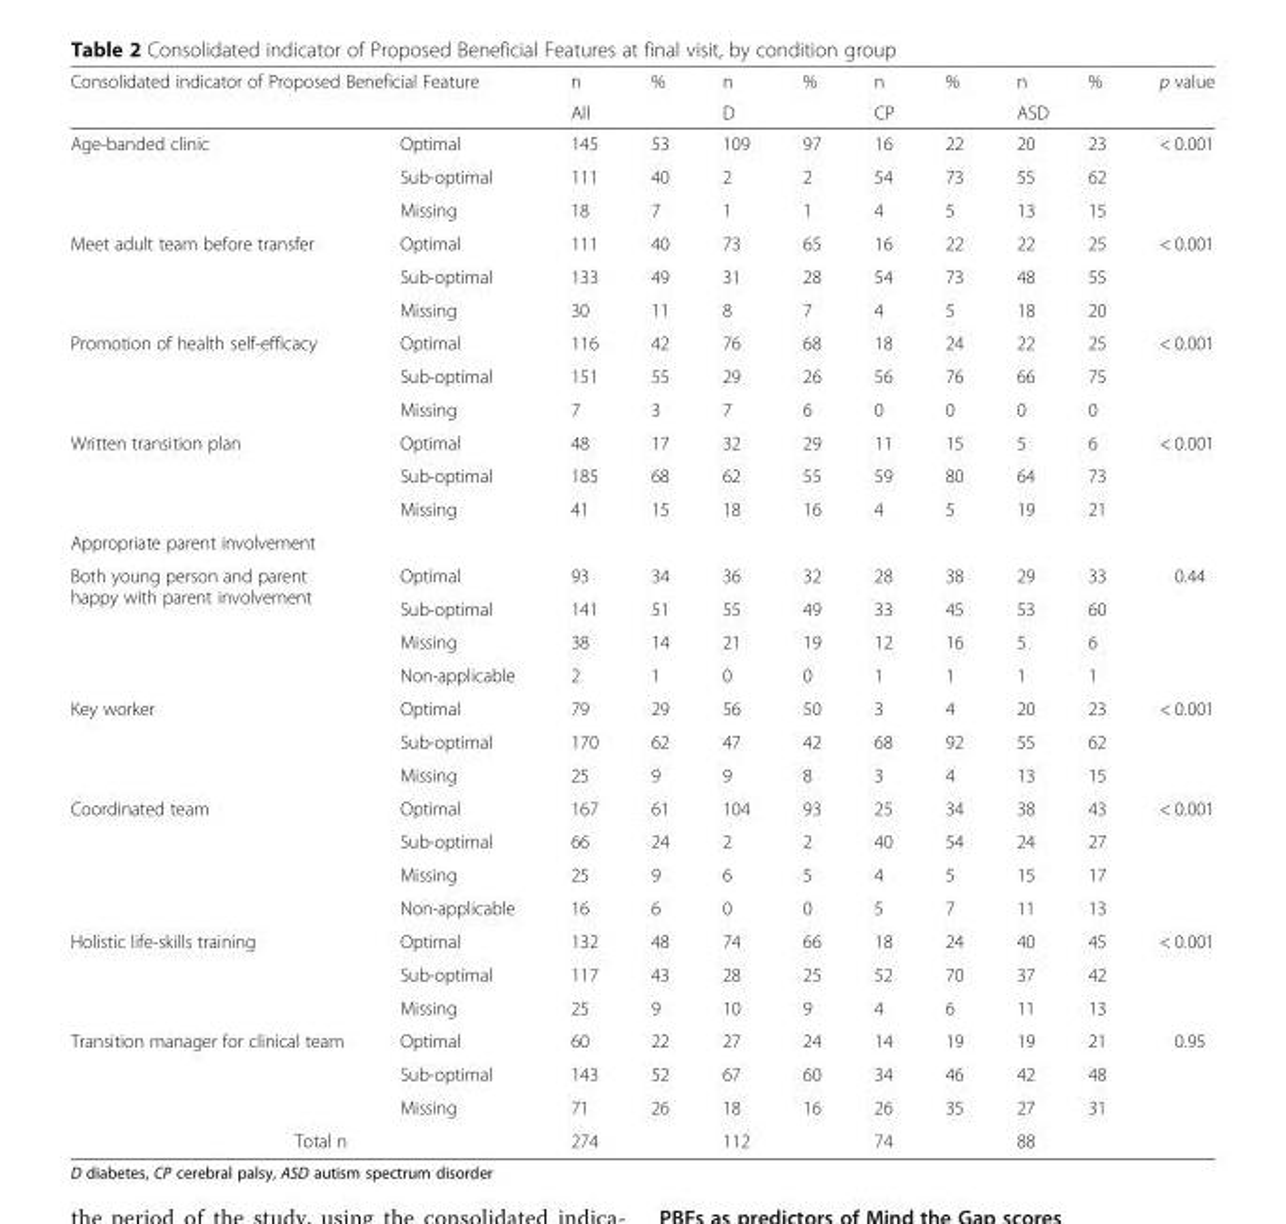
<table><thead><tr><td colspan="2">Consolidated indicator of Proposed Beneficial Feature</td><td>n</td><td>%</td><td>n</td><td>%</td><td>n</td><td>%</td><td>n</td><td>%</td><td rowspan="2">p value</td></tr><tr><td></td><td></td><td colspan="2">All</td><td colspan="2">D</td><td colspan="2">CP</td><td colspan="2">ASD</td></tr></thead><tbody><tr><td rowspan="3">Age-banded clinic</td><td>Optimal</td><td>145</td><td>53</td><td>109</td><td>97</td><td>16</td><td>22</td><td>20</td><td>23</td><td rowspan="3">&lt; 0.001</td></tr><tr><td>Sub-optimal</td><td>111</td><td>40</td><td>2</td><td>2</td><td>54</td><td>73</td><td>55</td><td>62</td></tr><tr><td>Missing</td><td>18</td><td>7</td><td>1</td><td>1</td><td>4</td><td>5</td><td>13</td><td>15</td></tr><tr><td rowspan="3">Meet adult team before transfer</td><td>Optimal</td><td>111</td><td>40</td><td>73</td><td>65</td><td>16</td><td>22</td><td>22</td><td>25</td><td rowspan="3">&lt; 0.001</td></tr><tr><td>Sub-optimal</td><td>133</td><td>49</td><td>31</td><td>28</td><td>54</td><td>73</td><td>48</td><td>55</td></tr><tr><td>Missing</td><td>30</td><td>11</td><td>8</td><td>7</td><td>4</td><td>5</td><td>18</td><td>20</td></tr><tr><td rowspan="3">Promotion of health self-efficacy</td><td>Optimal</td><td>116</td><td>42</td><td>76</td><td>68</td><td>18</td><td>24</td><td>22</td><td>25</td><td rowspan="3">&lt; 0.001</td></tr><tr><td>Sub-optimal</td><td>151</td><td>55</td><td>29</td><td>26</td><td>56</td><td>76</td><td>66</td><td>75</td></tr><tr><td>Missing</td><td>7</td><td>3</td><td>7</td><td>6</td><td>0</td><td>0</td><td>0</td><td>0</td></tr><tr><td rowspan="3">Written transition plan</td><td>Optimal</td><td>48</td><td>17</td><td>32</td><td>29</td><td>11</td><td>15</td><td>5</td><td>6</td><td rowspan="3">&lt; 0.001</td></tr><tr><td>Sub-optimal</td><td>185</td><td>68</td><td>62</td><td>55</td><td>59</td><td>80</td><td>64</td><td>73</td></tr><tr><td>Missing</td><td>41</td><td>15</td><td>18</td><td>16</td><td>4</td><td>5</td><td>19</td><td>21</td></tr><tr><td colspan="11">Appropriate parent involvement</td></tr><tr><td rowspan="4">Both young person and parent happy with parent involvement</td><td>Optimal</td><td>93</td><td>34</td><td>36</td><td>32</td><td>28</td><td>38</td><td>29</td><td>33</td><td rowspan="4">0.44</td></tr><tr><td>Sub-optimal</td><td>141</td><td>51</td><td>55</td><td>49</td><td>33</td><td>45</td><td>53</td><td>60</td></tr><tr><td>Missing</td><td>38</td><td>14</td><td>21</td><td>19</td><td>12</td><td>16</td><td>5</td><td>6</td></tr><tr><td>Non-applicable</td><td>2</td><td>1</td><td>0</td><td>0</td><td>1</td><td>1</td><td>1</td><td>1</td></tr><tr><td rowspan="3">Key worker</td><td>Optimal</td><td>79</td><td>29</td><td>56</td><td>50</td><td>3</td><td>4</td><td>20</td><td>23</td><td rowspan="3">&lt; 0.001</td></tr><tr><td>Sub-optimal</td><td>170</td><td>62</td><td>47</td><td>42</td><td>68</td><td>92</td><td>55</td><td>62</td></tr><tr><td>Missing</td><td>25</td><td>9</td><td>9</td><td>8</td><td>3</td><td>4</td><td>13</td><td>15</td></tr><tr><td rowspan="4">Coordinated team</td><td>Optimal</td><td>167</td><td>61</td><td>104</td><td>93</td><td>25</td><td>34</td><td>38</td><td>43</td><td rowspan="4">&lt; 0.001</td></tr><tr><td>Sub-optimal</td><td>66</td><td>24</td><td>2</td><td>2</td><td>40</td><td>54</td><td>24</td><td>27</td></tr><tr><td>Missing</td><td>25</td><td>9</td><td>6</td><td>5</td><td>4</td><td>5</td><td>15</td><td>17</td></tr><tr><td>Non-applicable</td><td>16</td><td>6</td><td>0</td><td>0</td><td>5</td><td>7</td><td>11</td><td>13</td></tr><tr><td rowspan="3">Holistic life-skills training</td><td>Optimal</td><td>132</td><td>48</td><td>74</td><td>66</td><td>18</td><td>24</td><td>40</td><td>45</td><td rowspan="3">&lt; 0.001</td></tr><tr><td>Sub-optimal</td><td>117</td><td>43</td><td>28</td><td>25</td><td>52</td><td>70</td><td>37</td><td>42</td></tr><tr><td>Missing</td><td>25</td><td>9</td><td>10</td><td>9</td><td>4</td><td>6</td><td>11</td><td>13</td></tr><tr><td rowspan="3">Transition manager for clinical team</td><td>Optimal</td><td>60</td><td>22</td><td>27</td><td>24</td><td>14</td><td>19</td><td>19</td><td>21</td><td rowspan="3">0.95</td></tr><tr><td>Sub-optimal</td><td>143</td><td>52</td><td>67</td><td>60</td><td>34</td><td>46</td><td>42</td><td>48</td></tr><tr><td>Missing</td><td>71</td><td>26</td><td>18</td><td>16</td><td>26</td><td>35</td><td>27</td><td>31</td></tr><tr><td>Total n</td><td></td><td>274</td><td></td><td>112</td><td></td><td>74</td><td></td><td>88</td><td></td><td></td></tr></tbody></table>